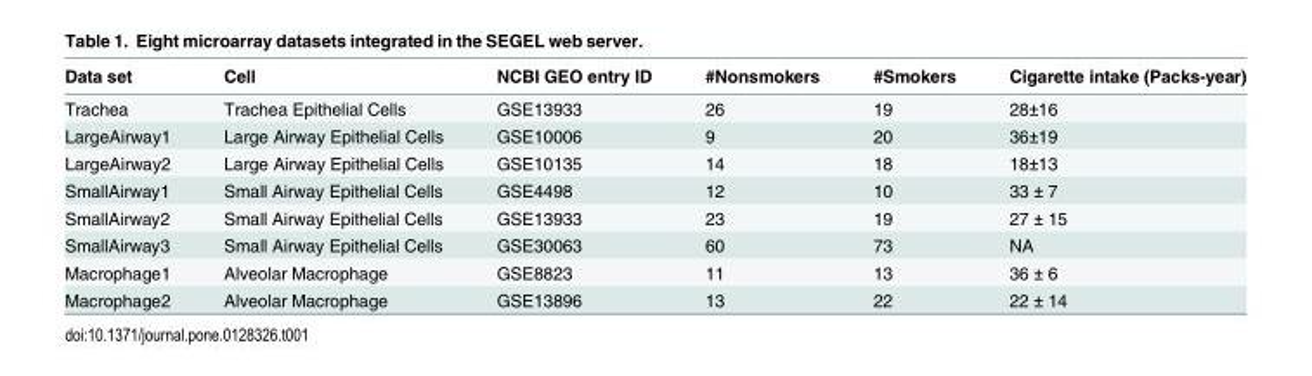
<table><thead><tr><td>Data set</td><td>Cell</td><td>NCBI GEO entry ID</td><td>#Nonsmokers</td><td>#Smokers</td><td>Cigarette intake (Packs-year)</td></tr></thead><tbody><tr><td>Trachea</td><td>Trachea Epithelial Cells</td><td>GSE13933</td><td>26</td><td>19</td><td>28±16</td></tr><tr><td>LargeAirway1</td><td>Large Airway Epithelial Cells</td><td>GSE10006</td><td>9</td><td>20</td><td>36±19</td></tr><tr><td>LargeAirway2</td><td>Large Airway Epithelial Cells</td><td>GSE10135</td><td>14</td><td>18</td><td>18±13</td></tr><tr><td>SmallAirway1</td><td>Small Airway Epithelial Cells</td><td>GSE4498</td><td>12</td><td>10</td><td>33 ± 7</td></tr><tr><td>SmallAirway2</td><td>Small Airway Epithelial Cells</td><td>GSE13933</td><td>23</td><td>19</td><td>27 ± 15</td></tr><tr><td>SmallAirway3</td><td>Small Airway Epithelial Cells</td><td>GSE30063</td><td>60</td><td>73</td><td>NA</td></tr><tr><td>Macrophage1</td><td>Alveolar Macrophage</td><td>GSE8823</td><td>11</td><td>13</td><td>36 ± 6</td></tr><tr><td>Macrophage2</td><td>Alveolar Macrophage</td><td>GSE13896</td><td>13</td><td>22</td><td>22 ± 14</td></tr></tbody></table>